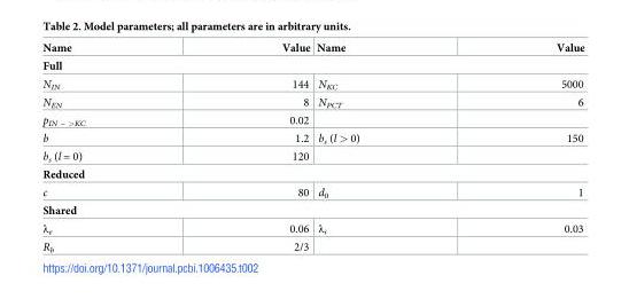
<table><thead><tr><td>Name</td><td>Value</td><td>Name</td><td>Value</td></tr></thead><tbody><tr><td colspan="4">Full</td></tr><tr><td>N<sub>IN</sub></td><td>144</td><td>N<sub>KC</sub></td><td>5000</td></tr><tr><td>N<sub>EN</sub></td><td>8</td><td>N<sub>PCT</sub></td><td>6</td></tr><tr><td>p<sub>IN − &gt;KC</sub></td><td>0.02</td><td></td><td></td></tr><tr><td>b</td><td>1.2</td><td>b<sub>s</sub> (l &gt; 0)</td><td>150</td></tr><tr><td>b<sub>s</sub> (l = 0)</td><td>120</td><td></td><td></td></tr><tr><td colspan="4">Reduced</td></tr><tr><td>c</td><td>80</td><td>d<sub>0</sub></td><td>1</td></tr><tr><td colspan="4">Shared</td></tr><tr><td>λ<sub>e</sub></td><td>0.06</td><td>λ<sub>i</sub></td><td>0.03</td></tr><tr><td>R<sub>b</sub></td><td>2/3</td><td></td><td></td></tr></tbody></table>